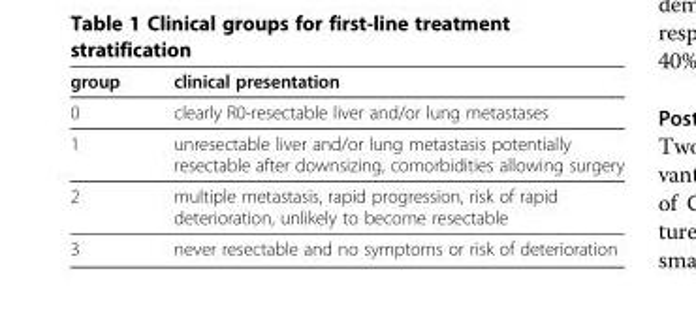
<table><thead><tr><td>group</td><td>clinical presentation</td></tr></thead><tbody><tr><td>0</td><td>clearly R0-resectable liver and/or lung metastases</td></tr><tr><td>1</td><td>unresectable liver and/or lung metastasis potentially resectable after downsizing, comorbidities allowing surgery</td></tr><tr><td>2</td><td>multiple metastasis, rapid progression, risk of rapid deterioration, unlikely to become resectable</td></tr><tr><td>3</td><td>never resectable and no symptoms or risk of deterioration</td></tr></tbody></table>